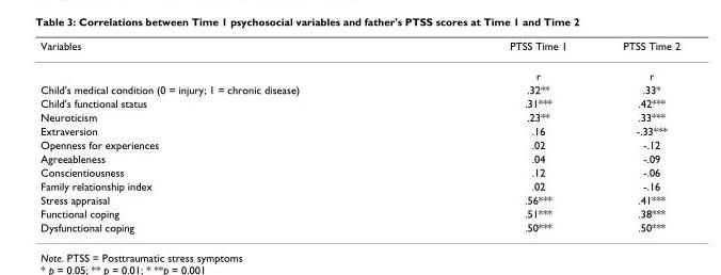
<table><thead><tr><td>Variables</td><td>PTSS Time 1</td><td>PTSS Time 2</td></tr></thead><tbody><tr><td></td><td>r</td><td>r</td></tr><tr><td>Child&#x27;s medical condition (0 = injury; 1 = chronic disease)</td><td>.32**</td><td>.33*</td></tr><tr><td>Child&#x27;s functional status</td><td>.31***</td><td>.42***</td></tr><tr><td>Neuroticism</td><td>.23**</td><td>.33***</td></tr><tr><td>Extraversion</td><td>.16</td><td>-.33***</td></tr><tr><td>Openness for experiences</td><td>.02</td><td>-.12</td></tr><tr><td>Agreeableness</td><td>.04</td><td>-.09</td></tr><tr><td>Conscientiousness</td><td>.12</td><td>-.06</td></tr><tr><td>Family relationship index</td><td>.02</td><td>-.16</td></tr><tr><td>Stress appraisal</td><td>.56***</td><td>.41***</td></tr><tr><td>Functional coping</td><td>.51***</td><td>.38***</td></tr><tr><td>Dysfunctional coping</td><td>.50***</td><td>.50***</td></tr></tbody></table>